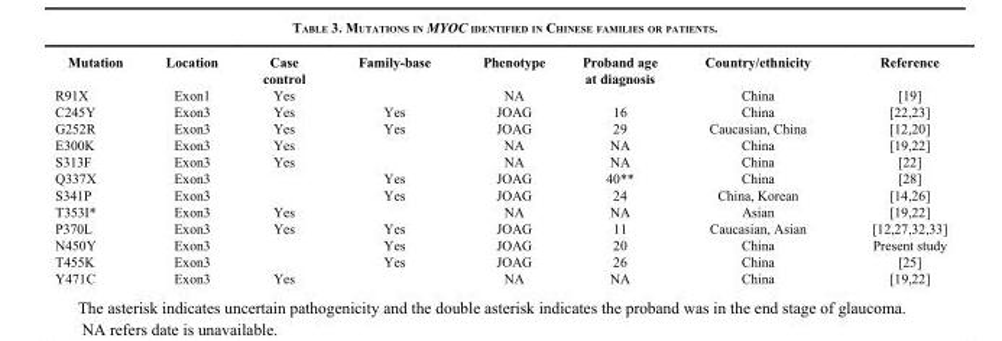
<table><thead><tr><td>Mutation</td><td>Location</td><td>Case control</td><td>Family-base</td><td>Phenotype</td><td>Proband age at diagnosis</td><td>Country/ethnicity</td><td>Reference</td></tr></thead><tbody><tr><td>R91X</td><td>Exon1</td><td>Yes</td><td></td><td>NA</td><td></td><td>China</td><td>[19]</td></tr><tr><td>C245Y</td><td>Exon3</td><td>Yes</td><td>Yes</td><td>JOAG</td><td>16</td><td>China</td><td>[22,23]</td></tr><tr><td>G252R</td><td>Exon3</td><td>Yes</td><td>Yes</td><td>JOAG</td><td>29</td><td>Caucasian, China</td><td>[12,20]</td></tr><tr><td>E300K</td><td>Exon3</td><td>Yes</td><td></td><td>NA</td><td>NA</td><td>China</td><td>[19,22]</td></tr><tr><td>S313F</td><td>Exon3</td><td>Yes</td><td></td><td>NA</td><td>NA</td><td>China</td><td>[22]</td></tr><tr><td>Q337X</td><td>Exon3</td><td></td><td>Yes</td><td>JOAG</td><td>40**</td><td>China</td><td>[28]</td></tr><tr><td>S341P</td><td>Exon3</td><td></td><td>Yes</td><td>JOAG</td><td>24</td><td>China, Korean</td><td>[14,26]</td></tr><tr><td>T353I*</td><td>Exon3</td><td>Yes</td><td></td><td>NA</td><td>NA</td><td>Asian</td><td>[19,22]</td></tr><tr><td>P370L</td><td>Exon3</td><td>Yes</td><td>Yes</td><td>JOAG</td><td>11</td><td>Caucasian, Asian</td><td>[12,27,32,33]</td></tr><tr><td>N450Y</td><td>Exon3</td><td></td><td>Yes</td><td>JOAG</td><td>20</td><td>China</td><td>Present study</td></tr><tr><td>T455K</td><td>Exon3</td><td></td><td>Yes</td><td>JOAG</td><td>26</td><td>China</td><td>[25]</td></tr><tr><td>Y471C</td><td>Exon3</td><td>Yes</td><td></td><td>NA</td><td>NA</td><td>China</td><td>[19,22]</td></tr></tbody></table>